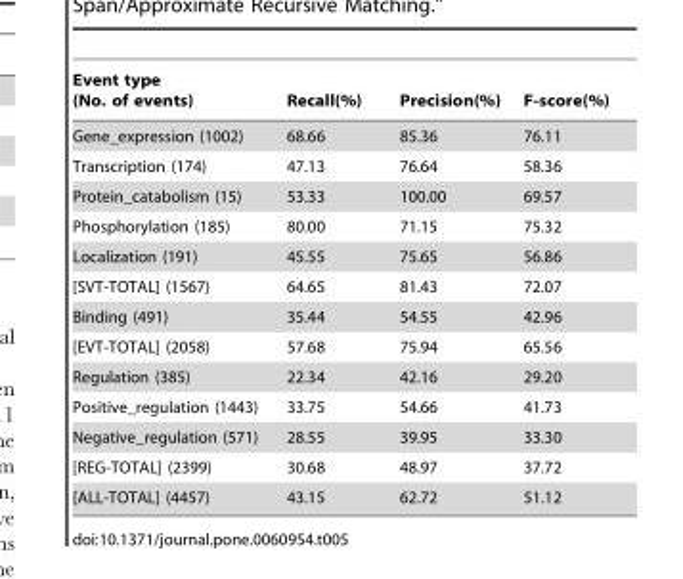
<table><thead><tr><td>Event type (No. of events)</td><td>Recall(%)</td><td>Precision(%)</td><td>F-score(%)</td></tr></thead><tbody><tr><td>Gene_expression (1002)</td><td>68.66</td><td>85.36</td><td>76.11</td></tr><tr><td>Transcription (174)</td><td>47.13</td><td>76.64</td><td>58.36</td></tr><tr><td>Protein_catabolism (15)</td><td>53.33</td><td>100.00</td><td>69.57</td></tr><tr><td>Phosphorylation (185)</td><td>80.00</td><td>71.15</td><td>75.32</td></tr><tr><td>Localization (191)</td><td>45.55</td><td>75.65</td><td>56.86</td></tr><tr><td>[SVT-TOTAL] (1567)</td><td>64.65</td><td>81.43</td><td>72.07</td></tr><tr><td>Binding (491)</td><td>35.44</td><td>54.55</td><td>42.96</td></tr><tr><td>[EVT-TOTAL] (2058)</td><td>57.68</td><td>75.94</td><td>65.56</td></tr><tr><td>Regulation (385)</td><td>22.34</td><td>42.16</td><td>29.20</td></tr><tr><td>Positive_regulation (1443)</td><td>33.75</td><td>54.66</td><td>41.73</td></tr><tr><td>Negative_regulation (571)</td><td>28.55</td><td>39.95</td><td>33.30</td></tr><tr><td>[REG-TOTAL] (2399)</td><td>30.68</td><td>48.97</td><td>37.72</td></tr><tr><td>[ALL-TOTAL] (4457)</td><td>43.15</td><td>62.72</td><td>51.12</td></tr></tbody></table>